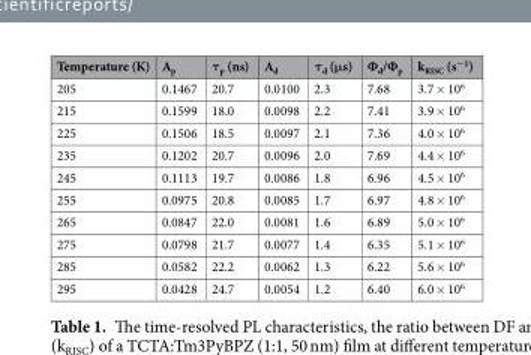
<table><thead><tr><td>Temperature (K)</td><td>A<sub>p</sub></td><td>τ<sub>p</sub> (ns)</td><td>A<sub>d</sub></td><td>τ<sub>d</sub> (μs)</td><td>Ф<sub>d</sub>/Ф<sub>p</sub></td><td>k<sub>RISC</sub> (s<sup>−1</sup>)</td></tr></thead><tbody><tr><td>205</td><td>0.1467</td><td>20.7</td><td>0.0100</td><td>2.3</td><td>7.68</td><td>3.7 × 10<sup>6</sup></td></tr><tr><td>215</td><td>0.1599</td><td>18.0</td><td>0.0098</td><td>2.2</td><td>7.41</td><td>3.9 × 10<sup>6</sup></td></tr><tr><td>225</td><td>0.1506</td><td>18.5</td><td>0.0097</td><td>2.1</td><td>7.36</td><td>4.0 × 10<sup>6</sup></td></tr><tr><td>235</td><td>0.1202</td><td>20.7</td><td>0.0096</td><td>2.0</td><td>7.69</td><td>4.4 × 10<sup>6</sup></td></tr><tr><td>245</td><td>0.1113</td><td>19.7</td><td>0.0086</td><td>1.8</td><td>6.96</td><td>4.5 × 10<sup>6</sup></td></tr><tr><td>255</td><td>0.0975</td><td>20.8</td><td>0.0085</td><td>1.7</td><td>6.97</td><td>4.8 × 10<sup>6</sup></td></tr><tr><td>265</td><td>0.0847</td><td>22.0</td><td>0.0081</td><td>1.6</td><td>6.89</td><td>5.0 × 10<sup>6</sup></td></tr><tr><td>275</td><td>0.0798</td><td>21.7</td><td>0.0077</td><td>1.4</td><td>6.35</td><td>5.1 × 10<sup>6</sup></td></tr><tr><td>285</td><td>0.0582</td><td>22.2</td><td>0.0062</td><td>1.3</td><td>6.22</td><td>5.6 × 10<sup>6</sup></td></tr><tr><td>295</td><td>0.0428</td><td>24.7</td><td>0.0054</td><td>1.2</td><td>6.40</td><td>6.0 × 10<sup>6</sup></td></tr></tbody></table>